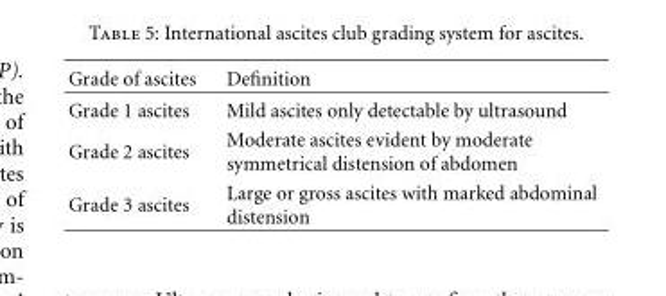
<table><thead><tr><td>Grade of ascites</td><td>Definition</td></tr></thead><tbody><tr><td>Grade 1 ascites</td><td>Mild ascites only detectable by ultrasound</td></tr><tr><td>Grade 2 ascites</td><td>Moderate ascites evident by moderate symmetrical distension of abdomen</td></tr><tr><td>Grade 3 ascites</td><td>Large or gross ascites with marked abdominal distension</td></tr></tbody></table>